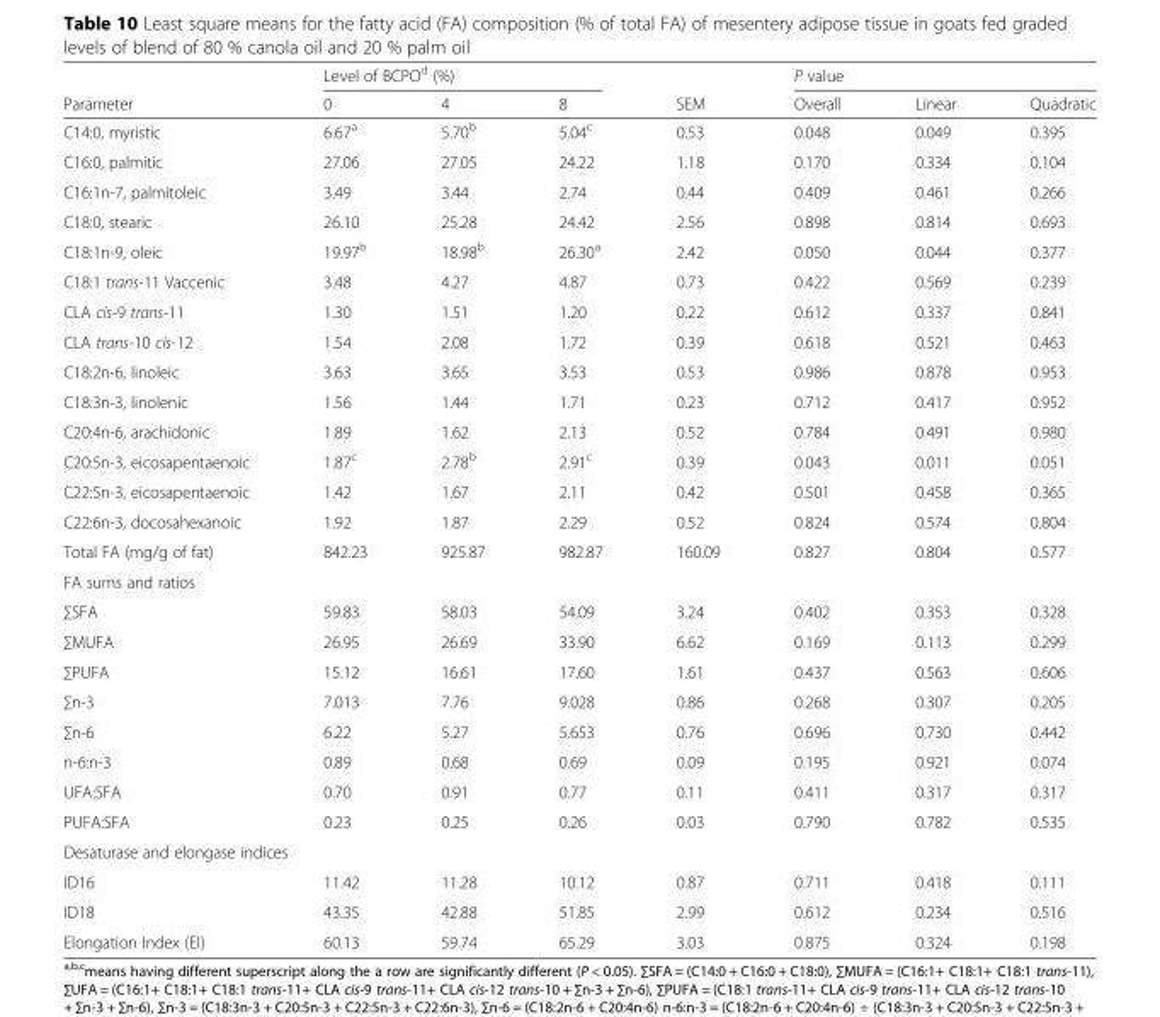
<table><thead><tr><td rowspan="2">Parameter</td><td colspan="3">Level of BCPO<sup>d</sup> (%)</td><td rowspan="2">SEM</td><td colspan="3">P value</td></tr><tr><td>0</td><td>4</td><td>8</td><td>Overall</td><td>Linear</td><td>Quadratic</td></tr></thead><tbody><tr><td>C14:0, myristic</td><td>6.67<sup>a</sup></td><td>5.70<sup>b</sup></td><td>5.04<sup>c</sup></td><td>0.53</td><td>0.048</td><td>0.049</td><td>0.395</td></tr><tr><td>C16:0, palmitic</td><td>27.06</td><td>27.05</td><td>24.22</td><td>1.18</td><td>0.170</td><td>0.334</td><td>0.104</td></tr><tr><td>C16:1n-7, palmitoleic</td><td>3.49</td><td>3.44</td><td>2.74</td><td>0.44</td><td>0.409</td><td>0.461</td><td>0.266</td></tr><tr><td>C18:0, stearic</td><td>26.10</td><td>25.28</td><td>24.42</td><td>2.56</td><td>0.898</td><td>0.814</td><td>0.693</td></tr><tr><td>C18:1n-9, oleic</td><td>19.97<sup>b</sup></td><td>18.98<sup>b</sup></td><td>26.30<sup>a</sup></td><td>2.42</td><td>0.050</td><td>0.044</td><td>0.377</td></tr><tr><td>C18:1 trans-11 Vaccenic</td><td>3.48</td><td>4.27</td><td>4.87</td><td>0.73</td><td>0.422</td><td>0.569</td><td>0.239</td></tr><tr><td>CLA cis-9 trans-11</td><td>1.30</td><td>1.51</td><td>1.20</td><td>0.22</td><td>0.612</td><td>0.337</td><td>0.841</td></tr><tr><td>CLA trans-10 cis-12</td><td>1.54</td><td>2.08</td><td>1.72</td><td>0.39</td><td>0.618</td><td>0.521</td><td>0.463</td></tr><tr><td>C18:2n-6, linoleic</td><td>3.63</td><td>3.65</td><td>3.53</td><td>0.53</td><td>0.986</td><td>0.878</td><td>0.953</td></tr><tr><td>C18:3n-3, linolenic</td><td>1.56</td><td>1.44</td><td>1.71</td><td>0.23</td><td>0.712</td><td>0.417</td><td>0.952</td></tr><tr><td>C20:4n-6, arachidonic</td><td>1.89</td><td>1.62</td><td>2.13</td><td>0.52</td><td>0.784</td><td>0.491</td><td>0.980</td></tr><tr><td>C20:5n-3, eicosapentaenoic</td><td>1.87<sup>c</sup></td><td>2.78<sup>b</sup></td><td>2.91<sup>c</sup></td><td>0.39</td><td>0.043</td><td>0.011</td><td>0.051</td></tr><tr><td>C22:5n-3, eicosapentaenoic</td><td>1.42</td><td>1.67</td><td>2.11</td><td>0.42</td><td>0.501</td><td>0.458</td><td>0.365</td></tr><tr><td>C22:6n-3, docosahexanoic</td><td>1.92</td><td>1.87</td><td>2.29</td><td>0.52</td><td>0.824</td><td>0.574</td><td>0.804</td></tr><tr><td>Total FA (mg/g of fat)</td><td>842.23</td><td>925.87</td><td>982.87</td><td>160.09</td><td>0.827</td><td>0.804</td><td>0.577</td></tr><tr><td colspan="8">FA sums and ratios</td></tr><tr><td>∑SFA</td><td>59.83</td><td>58.03</td><td>54.09</td><td>3.24</td><td>0.402</td><td>0.353</td><td>0.328</td></tr><tr><td>∑MUFA</td><td>26.95</td><td>26.69</td><td>33.90</td><td>6.62</td><td>0.169</td><td>0.113</td><td>0.299</td></tr><tr><td>∑PUFA</td><td>15.12</td><td>16.61</td><td>17.60</td><td>1.61</td><td>0.437</td><td>0.563</td><td>0.606</td></tr><tr><td>∑n-3</td><td>7.013</td><td>7.76</td><td>9.028</td><td>0.86</td><td>0.268</td><td>0.307</td><td>0.205</td></tr><tr><td>∑n-6</td><td>6.22</td><td>5.27</td><td>5.653</td><td>0.76</td><td>0.696</td><td>0.730</td><td>0.442</td></tr><tr><td>n-6:n-3</td><td>0.89</td><td>0.68</td><td>0.69</td><td>0.09</td><td>0.195</td><td>0.921</td><td>0.074</td></tr><tr><td>UFA:SFA</td><td>0.70</td><td>0.91</td><td>0.77</td><td>0.11</td><td>0.411</td><td>0.317</td><td>0.317</td></tr><tr><td>PUFA:SFA</td><td>0.23</td><td>0.25</td><td>0.26</td><td>0.03</td><td>0.790</td><td>0.782</td><td>0.535</td></tr><tr><td colspan="8">Desaturase and elongase indices</td></tr><tr><td>ID16</td><td>11.42</td><td>11.28</td><td>10.12</td><td>0.87</td><td>0.711</td><td>0.418</td><td>0.111</td></tr><tr><td>ID18</td><td>43.35</td><td>42.88</td><td>51.85</td><td>2.99</td><td>0.612</td><td>0.234</td><td>0.516</td></tr><tr><td>Elongation Index (EI)</td><td>60.13</td><td>59.74</td><td>65.29</td><td>3.03</td><td>0.875</td><td>0.324</td><td>0.198</td></tr></tbody></table>